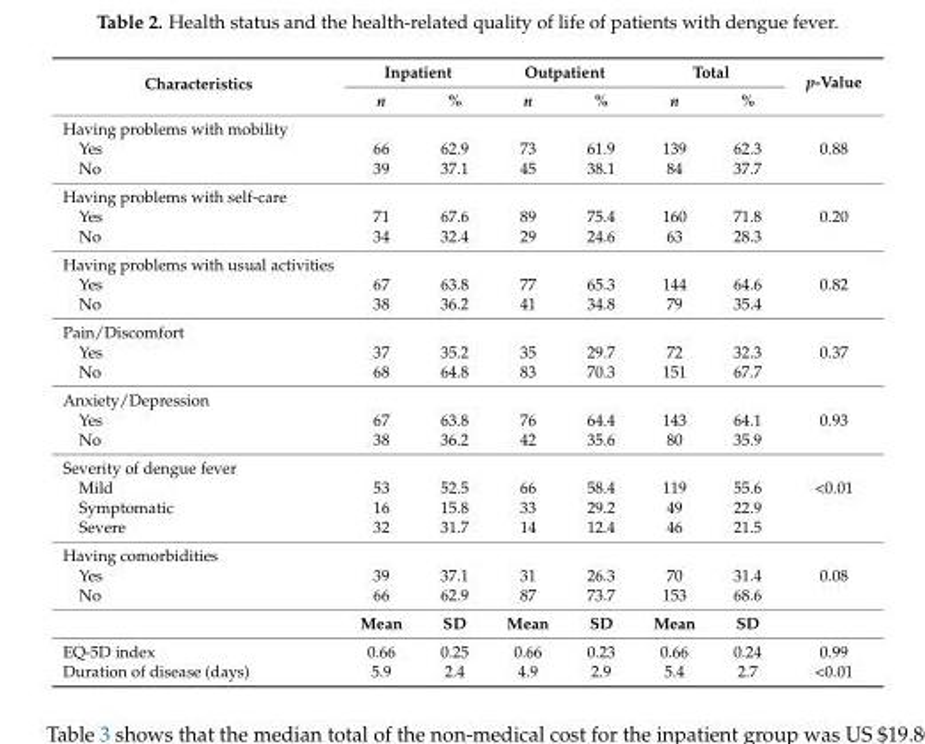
<table><thead><tr><td rowspan="2">Characteristics</td><td colspan="2">Inpatient</td><td colspan="2">Outpatient</td><td colspan="2">Total</td><td rowspan="2">p-Value</td></tr><tr><td>n</td><td>%</td><td>n</td><td>%</td><td>n</td><td>%</td></tr></thead><tbody><tr><td colspan="8">Having problems with mobility</td></tr><tr><td>Yes</td><td>66</td><td>62.9</td><td>73</td><td>61.9</td><td>139</td><td>62.3</td><td>0.88</td></tr><tr><td>No</td><td>39</td><td>37.1</td><td>45</td><td>38.1</td><td>84</td><td>37.7</td><td></td></tr><tr><td colspan="8">Having problems with self-care</td></tr><tr><td>Yes</td><td>71</td><td>67.6</td><td>89</td><td>75.4</td><td>160</td><td>71.8</td><td>0.20</td></tr><tr><td>No</td><td>34</td><td>32.4</td><td>29</td><td>24.6</td><td>63</td><td>28.3</td><td></td></tr><tr><td colspan="8">Having problems with usual activities</td></tr><tr><td>Yes</td><td>67</td><td>63.8</td><td>77</td><td>65.3</td><td>144</td><td>64.6</td><td>0.82</td></tr><tr><td>No</td><td>38</td><td>36.2</td><td>41</td><td>34.8</td><td>79</td><td>35.4</td><td></td></tr><tr><td colspan="8">Pain/Discomfort</td></tr><tr><td>Yes</td><td>37</td><td>35.2</td><td>35</td><td>29.7</td><td>72</td><td>32.3</td><td>0.37</td></tr><tr><td>No</td><td>68</td><td>64.8</td><td>83</td><td>70.3</td><td>151</td><td>67.7</td><td></td></tr><tr><td colspan="8">Anxiety/Depression</td></tr><tr><td>Yes</td><td>67</td><td>63.8</td><td>76</td><td>64.4</td><td>143</td><td>64.1</td><td>0.93</td></tr><tr><td>No</td><td>38</td><td>36.2</td><td>42</td><td>35.6</td><td>80</td><td>35.9</td><td></td></tr><tr><td colspan="8">Severity of dengue fever</td></tr><tr><td>Mild</td><td>53</td><td>52.5</td><td>66</td><td>58.4</td><td>119</td><td>55.6</td><td>&lt;0.01</td></tr><tr><td>Symptomatic</td><td>16</td><td>15.8</td><td>33</td><td>29.2</td><td>49</td><td>22.9</td><td></td></tr><tr><td>Severe</td><td>32</td><td>31.7</td><td>14</td><td>12.4</td><td>46</td><td>21.5</td><td></td></tr><tr><td colspan="8">Having comorbidities</td></tr><tr><td>Yes</td><td>39</td><td>37.1</td><td>31</td><td>26.3</td><td>70</td><td>31.4</td><td>0.08</td></tr><tr><td rowspan="2">No</td><td>66</td><td>62.9</td><td>87</td><td>73.7</td><td>153</td><td>68.6</td><td></td></tr><tr><td>Mean</td><td>SD</td><td>Mean</td><td>SD</td><td>Mean</td><td>SD</td><td></td></tr><tr><td>EQ-5D index</td><td>0.66</td><td>0.25</td><td>0.66</td><td>0.23</td><td>0.66</td><td>0.24</td><td>0.99</td></tr><tr><td>Duration of disease (days)</td><td>5.9</td><td>2.4</td><td>4.9</td><td>2.9</td><td>5.4</td><td>2.7</td><td>&lt;0.01</td></tr></tbody></table>